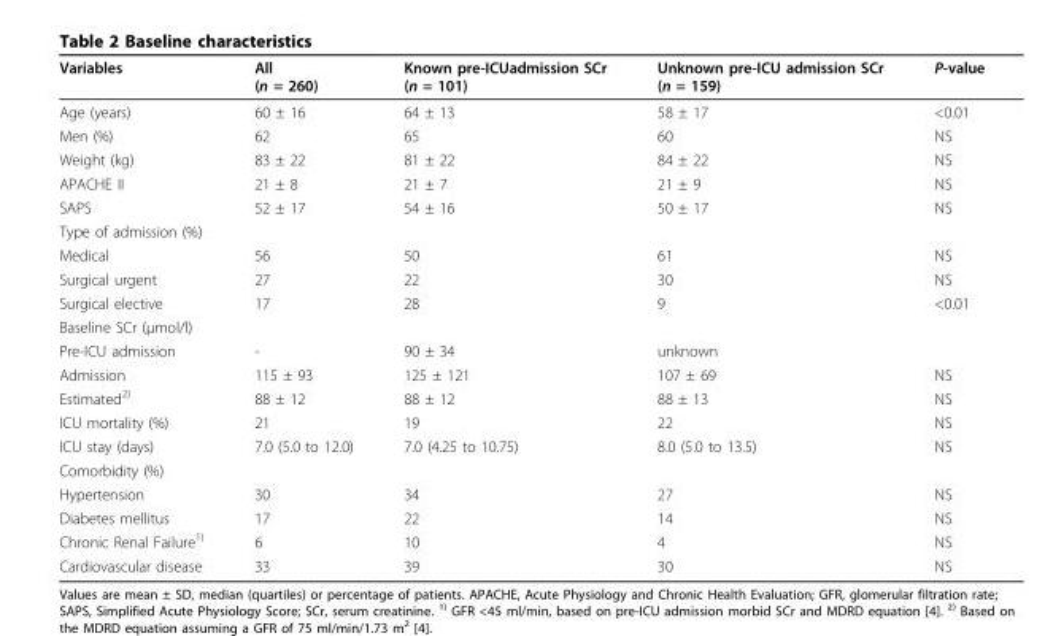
<table><thead><tr><td>Variables</td><td>All (n = 260)</td><td>Known pre-ICUadmission SCr (n = 101)</td><td>Unknown pre-ICU admission SCr (n = 159)</td><td>P-value</td></tr></thead><tbody><tr><td>Age (years)</td><td>60 ± 16</td><td>64 ± 13</td><td>58 ± 17</td><td>&lt;0.01</td></tr><tr><td>Men (%)</td><td>62</td><td>65</td><td>60</td><td>NS</td></tr><tr><td>Weight (kg)</td><td>83 ± 22</td><td>81 ± 22</td><td>84 ± 22</td><td>NS</td></tr><tr><td>APACHE II</td><td>21 ± 8</td><td>21 ± 7</td><td>21 ± 9</td><td>NS</td></tr><tr><td>SAPS</td><td>52 ± 17</td><td>54 ± 16</td><td>50 ± 17</td><td>NS</td></tr><tr><td colspan="5">Type of admission (%)</td></tr><tr><td>Medical</td><td>56</td><td>50</td><td>61</td><td>NS</td></tr><tr><td>Surgical urgent</td><td>27</td><td>22</td><td>30</td><td>NS</td></tr><tr><td>Surgical elective</td><td>17</td><td>28</td><td>9</td><td>&lt;0.01</td></tr><tr><td colspan="5">Baseline SCr (μmol/l)</td></tr><tr><td>Pre-ICU admission</td><td>-</td><td>90 ± 34</td><td>unknown</td><td></td></tr><tr><td>Admission</td><td>115 ± 93</td><td>125 ± 121</td><td>107 ± 69</td><td>NS</td></tr><tr><td>Estimated<sup>2)</sup></td><td>88 ± 12</td><td>88 ± 12</td><td>88 ± 13</td><td>NS</td></tr><tr><td>ICU mortality (%)</td><td>21</td><td>19</td><td>22</td><td>NS</td></tr><tr><td>ICU stay (days)</td><td>7.0 (5.0 to 12.0)</td><td>7.0 (4.25 to 10.75)</td><td>8.0 (5.0 to 13.5)</td><td>NS</td></tr><tr><td colspan="5">Comorbidity (%)</td></tr><tr><td>Hypertension</td><td>30</td><td>34</td><td>27</td><td>NS</td></tr><tr><td>Diabetes mellitus</td><td>17</td><td>22</td><td>14</td><td>NS</td></tr><tr><td>Chronic Renal Failure<sup>1)</sup></td><td>6</td><td>10</td><td>4</td><td>NS</td></tr><tr><td>Cardiovascular disease</td><td>33</td><td>39</td><td>30</td><td>NS</td></tr></tbody></table>